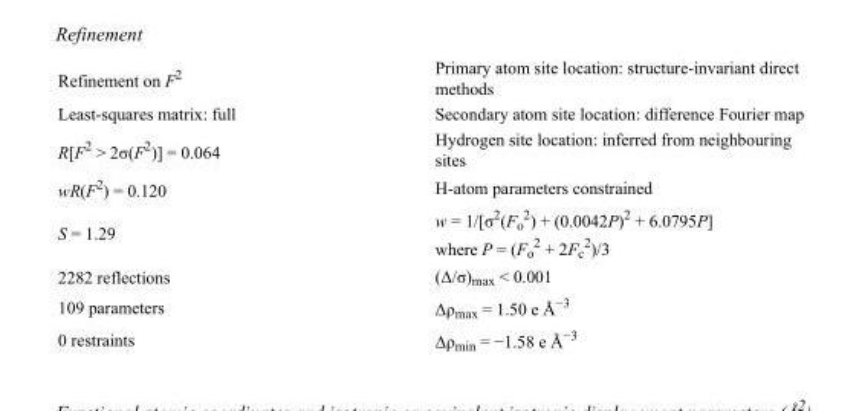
<table><tbody><tr><td>Refinement on F<sup>2</sup></td><td>Primary atom site location: structure-invariant direct methods</td></tr><tr><td>Least-squares matrix: full</td><td>Secondary atom site location: difference Fourier map</td></tr><tr><td>R[F<sup>2</sup> &gt; 2σ(F<sup>2</sup>)] = 0.064</td><td>Hydrogen site location: inferred from neighbouring sites</td></tr><tr><td>wR(F<sup>2</sup>) = 0.120</td><td>H-atom parameters constrained</td></tr><tr><td>S = 1.29</td><td>w = 1/[σ<sup>2</sup>(F<sub>o</sub> <sup>2</sup>) + (0.0042P)<sup>2</sup> + 6.0795P] where P = (F<sub>o</sub> <sup>2</sup> + 2F<sub>c</sub> <sup>2</sup>)/3</td></tr><tr><td>2282 reflections</td><td>(Δ/σ)<sub>max</sub> &lt; 0.001</td></tr><tr><td>109 parameters</td><td>Δρ<sub>max</sub> = 1.50 e Å<sup>−3</sup></td></tr><tr><td>0 restraints</td><td>Δρ<sub>min</sub> = −1.58 e Å<sup>−3</sup></td></tr></tbody></table>